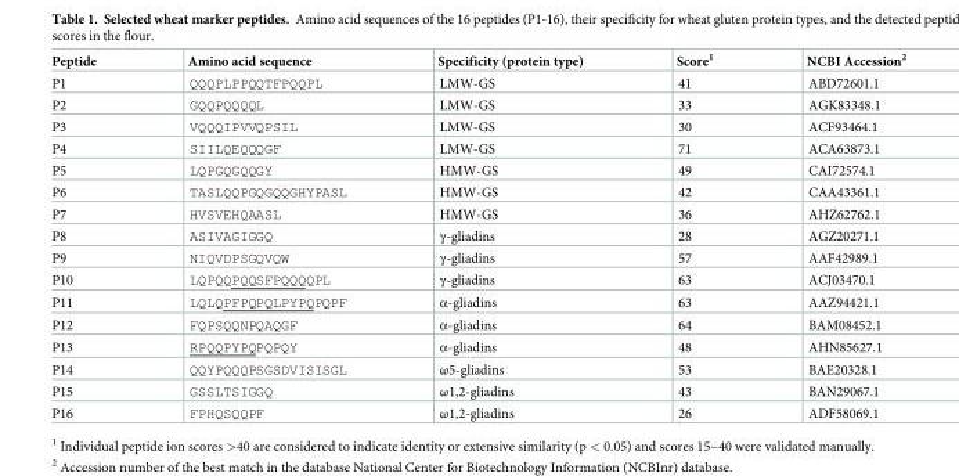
<table><thead><tr><td>Peptide</td><td>Amino acid sequence</td><td>Specificity (protein type)</td><td>Score<sup>1</sup></td><td>NCBI Accession<sup>2</sup></td></tr></thead><tbody><tr><td>P1</td><td>QQQPLPPQQTFPQQPL</td><td>LMW-GS</td><td>41</td><td>ABD72601.1</td></tr><tr><td>P2</td><td>GQQPQQQQL</td><td>LMW-GS</td><td>33</td><td>AGK83348.1</td></tr><tr><td>P3</td><td>VQQQIPVVQPSIL</td><td>LMW-GS</td><td>30</td><td>ACF93464.1</td></tr><tr><td>P4</td><td>SIILQEQQQGF</td><td>LMW-GS</td><td>71</td><td>ACA63873.1</td></tr><tr><td>P5</td><td>LQPGQGQQGY</td><td>HMW-GS</td><td>49</td><td>CAI72574.1</td></tr><tr><td>P6</td><td>TASLQQPGQGQQGHYPASL</td><td>HMW-GS</td><td>42</td><td>CAA43361.1</td></tr><tr><td>P7</td><td>HVSVEHQAASL</td><td>HMW-GS</td><td>36</td><td>AHZ62762.1</td></tr><tr><td>P8</td><td>ASIVAGIGGQ</td><td>γ-gliadins</td><td>28</td><td>AGZ20271.1</td></tr><tr><td>P9</td><td>NIQVDPSGQVQW</td><td>γ-gliadins</td><td>57</td><td>AAF42989.1</td></tr><tr><td>P10</td><td>LQPQQPQQSFPQQQQPL</td><td>γ-gliadins</td><td>63</td><td>ACJ03470.1</td></tr><tr><td>P11</td><td>LQLQPFPQPQLPYPQPQPF</td><td>α-gliadins</td><td>63</td><td>AAZ94421.1</td></tr><tr><td>P12</td><td>FQPSQQNPQAQGF</td><td>α-gliadins</td><td>64</td><td>BAM08452.1</td></tr><tr><td>P13</td><td>RPQQPYPQPQPQY</td><td>α-gliadins</td><td>48</td><td>AHN85627.1</td></tr><tr><td>P14</td><td>QQYPQQQPSGSDVISISGL</td><td>ω5-gliadins</td><td>53</td><td>BAE20328.1</td></tr><tr><td>P15</td><td>GSSLTSIGGQ</td><td>ω1,2-gliadins</td><td>43</td><td>BAN29067.1</td></tr><tr><td>P16</td><td>FPHQSQQPF</td><td>ω1,2-gliadins</td><td>26</td><td>ADF58069.1</td></tr></tbody></table>